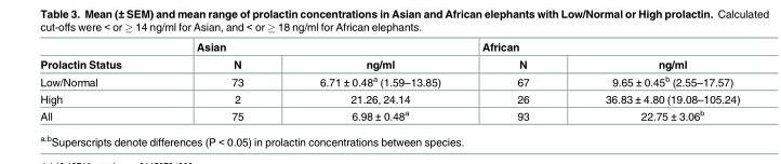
<table><thead><tr><td rowspan="2">Prolactin Status</td><td colspan="2">Asian</td><td colspan="2">African</td></tr><tr><td>N</td><td>ng/ml</td><td>N</td><td>ng/ml</td></tr></thead><tbody><tr><td>Low/Normal</td><td>73</td><td>6.71 ± 0.48<sup>a</sup> (1.59–13.85)</td><td>67</td><td>9.65 ± 0.45<sup>b</sup> (2.55–17.57)</td></tr><tr><td>High</td><td>2</td><td>21.26, 24.14</td><td>26</td><td>36.83 ± 4.80 (19.08–105.24)</td></tr><tr><td>All</td><td>75</td><td>6.98 ± 0.48<sup>a</sup></td><td>93</td><td>22.75 ± 3.06<sup>b</sup></td></tr></tbody></table>